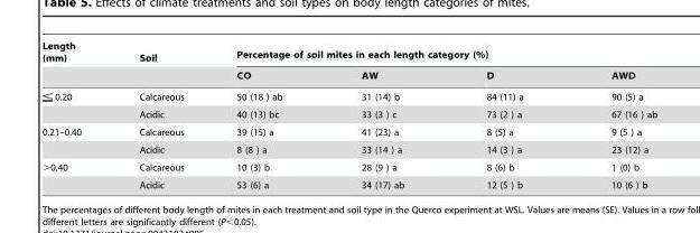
<table><thead><tr><td rowspan="2">Length (mm)</td><td rowspan="2">Soil</td><td colspan="4">Percentage of soil mites in each length category (%)</td></tr><tr><td>CO</td><td>AW</td><td>D</td><td>AWD</td></tr></thead><tbody><tr><td rowspan="2">0.20</td><td>Calcareous</td><td>50 (18 ) ab</td><td>31 (14) b</td><td>84 (11) a</td><td>90 (5) a</td></tr><tr><td>Acidic</td><td>40 (13) bc</td><td>33 (3 ) c</td><td>73 (2 ) a</td><td>67 (16 ) ab</td></tr><tr><td rowspan="2">0.21–0.40</td><td>Calcareous</td><td>39 (15) a</td><td>41 (23) a</td><td>8 (5) a</td><td>9 (5 ) a</td></tr><tr><td>Acidic</td><td>8 (8 ) a</td><td>33 (14 ) a</td><td>14 (3 ) a</td><td>23 (12) a</td></tr><tr><td rowspan="2">&gt;0.40</td><td>Calcareous</td><td>10 (3) b</td><td>28 (9 ) a</td><td>8 (6) b</td><td>1 (0) b</td></tr><tr><td>Acidic</td><td>53 (6) a</td><td>34 (17) ab</td><td>12 (5 ) b</td><td>10 (6 ) b</td></tr></tbody></table>